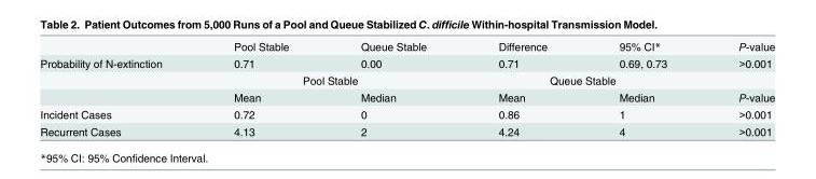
<table><thead><tr><td></td><td>Pool Stable</td><td>Queue Stable</td><td>Difference</td><td>95% CI*</td><td>P-value</td></tr></thead><tbody><tr><td rowspan="3">Probability of N-extinction</td><td>0.71</td><td>0.00</td><td>0.71</td><td>0.69, 0.73</td><td>&gt;0.001</td></tr><tr><td colspan="2">Pool Stable</td><td colspan="2">Queue Stable</td><td></td></tr><tr><td>Mean</td><td>Median</td><td>Mean</td><td>Median</td><td>P-value</td></tr><tr><td>Incident Cases</td><td>0.72</td><td>0</td><td>0.86</td><td>1</td><td>&gt;0.001</td></tr><tr><td>Recurrent Cases</td><td>4.13</td><td>2</td><td>4.24</td><td>4</td><td>&gt;0.001</td></tr></tbody></table>